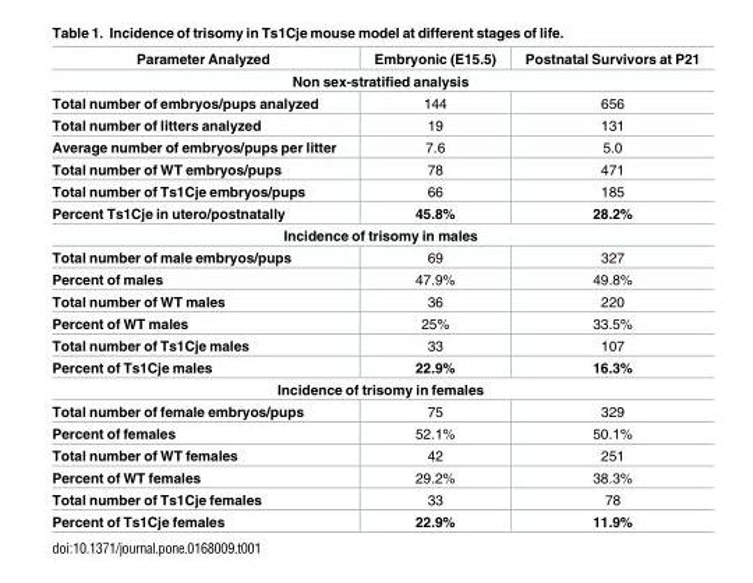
<table><thead><tr><td>Parameter Analyzed</td><td>Embryonic (E15.5)</td><td>Postnatal Survivors at P21</td></tr></thead><tbody><tr><td colspan="3">Non sex-stratified analysis</td></tr><tr><td>Total number of embryos/pups analyzed</td><td>144</td><td>656</td></tr><tr><td>Total number of litters analyzed</td><td>19</td><td>131</td></tr><tr><td>Average number of embryos/pups per litter</td><td>7.6</td><td>5.0</td></tr><tr><td>Total number of WT embryos/pups</td><td>78</td><td>471</td></tr><tr><td>Total number of Ts1Cje embryos/pups</td><td>66</td><td>185</td></tr><tr><td>Percent Ts1Cje in utero/postnatally</td><td>45.8%</td><td>28.2%</td></tr><tr><td colspan="3">Incidence of trisomy in males</td></tr><tr><td>Total number of male embryos/pups</td><td>69</td><td>327</td></tr><tr><td>Percent of males</td><td>47.9%</td><td>49.8%</td></tr><tr><td>Total number of WT males</td><td>36</td><td>220</td></tr><tr><td>Percent of WT males</td><td>25%</td><td>33.5%</td></tr><tr><td>Total number of Ts1Cje males</td><td>33</td><td>107</td></tr><tr><td>Percent of Ts1Cje males</td><td>22.9%</td><td>16.3%</td></tr><tr><td colspan="3">Incidence of trisomy in females</td></tr><tr><td>Total number of female embryos/pups</td><td>75</td><td>329</td></tr><tr><td>Percent of females</td><td>52.1%</td><td>50.1%</td></tr><tr><td>Total number of WT females</td><td>42</td><td>251</td></tr><tr><td>Percent of WT females</td><td>29.2%</td><td>38.3%</td></tr><tr><td>Total number of Ts1Cje females</td><td>33</td><td>78</td></tr><tr><td>Percent of Ts1Cje females</td><td>22.9%</td><td>11.9%</td></tr></tbody></table>